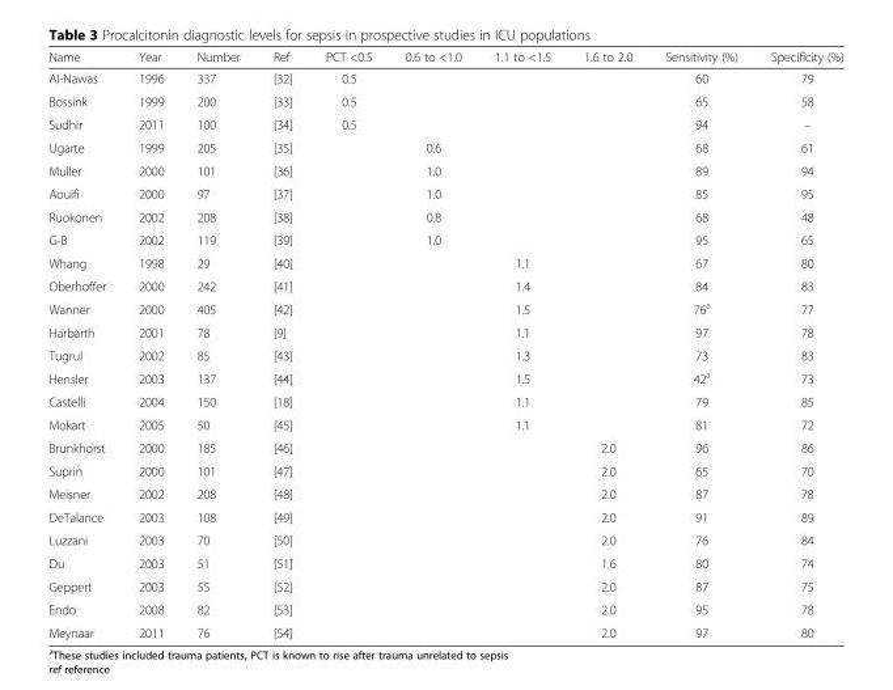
<table><thead><tr><td>Name</td><td>Year</td><td>Number</td><td>Ref</td><td>PCT &lt;0.5</td><td>0.6 to &lt;1.0</td><td>1.1 to &lt;1.5</td><td>1.6 to 2.0</td><td>Sensitivity (%)</td><td>Specificity (%)</td></tr></thead><tbody><tr><td>Al-Nawas</td><td>1996</td><td>337</td><td>[32]</td><td>0.5</td><td></td><td></td><td></td><td>60</td><td>79</td></tr><tr><td>Bossink</td><td>1999</td><td>200</td><td>[33]</td><td>0.5</td><td></td><td></td><td></td><td>65</td><td>58</td></tr><tr><td>Sudhir</td><td>2011</td><td>100</td><td>[34]</td><td>0.5</td><td></td><td></td><td></td><td>94</td><td>–</td></tr><tr><td>Ugarte</td><td>1999</td><td>205</td><td>[35]</td><td></td><td>0.6</td><td></td><td></td><td>68</td><td>61</td></tr><tr><td>Muller</td><td>2000</td><td>101</td><td>[36]</td><td></td><td>1.0</td><td></td><td></td><td>89</td><td>94</td></tr><tr><td>Aouifi</td><td>2000</td><td>97</td><td>[37]</td><td></td><td>1.0</td><td></td><td></td><td>85</td><td>95</td></tr><tr><td>Ruokonen</td><td>2002</td><td>208</td><td>[38]</td><td></td><td>0.8</td><td></td><td></td><td>68</td><td>48</td></tr><tr><td>G-B</td><td>2002</td><td>119</td><td>[39]</td><td></td><td>1.0</td><td></td><td></td><td>95</td><td>65</td></tr><tr><td>Whang</td><td>1998</td><td>29</td><td>[40]</td><td></td><td></td><td>1.1</td><td></td><td>67</td><td>80</td></tr><tr><td>Oberhoffer</td><td>2000</td><td>242</td><td>[41]</td><td></td><td></td><td>1.4</td><td></td><td>84</td><td>83</td></tr><tr><td>Wanner</td><td>2000</td><td>405</td><td>[42]</td><td></td><td></td><td>1.5</td><td></td><td>76<sup>a</sup></td><td>77</td></tr><tr><td>Harbarth</td><td>2001</td><td>78</td><td>[9]</td><td></td><td></td><td>1.1</td><td></td><td>97</td><td>78</td></tr><tr><td>Tugrul</td><td>2002</td><td>85</td><td>[43]</td><td></td><td></td><td>1.3</td><td></td><td>73</td><td>83</td></tr><tr><td>Hensler</td><td>2003</td><td>137</td><td>[44]</td><td></td><td></td><td>1.5</td><td></td><td>42<sup>a</sup></td><td>73</td></tr><tr><td>Castelli</td><td>2004</td><td>150</td><td>[18]</td><td></td><td></td><td>1.1</td><td></td><td>79</td><td>85</td></tr><tr><td>Mokart</td><td>2005</td><td>50</td><td>[45]</td><td></td><td></td><td>1.1</td><td></td><td>81</td><td>72</td></tr><tr><td>Brunkhorst</td><td>2000</td><td>185</td><td>[46]</td><td></td><td></td><td></td><td>2.0</td><td>96</td><td>86</td></tr><tr><td>Suprin</td><td>2000</td><td>101</td><td>[47]</td><td></td><td></td><td></td><td>2.0</td><td>65</td><td>70</td></tr><tr><td>Meisner</td><td>2002</td><td>208</td><td>[48]</td><td></td><td></td><td></td><td>2.0</td><td>87</td><td>78</td></tr><tr><td>DeTalance</td><td>2003</td><td>108</td><td>[49]</td><td></td><td></td><td></td><td>2.0</td><td>91</td><td>89</td></tr><tr><td>Luzzani</td><td>2003</td><td>70</td><td>[50]</td><td></td><td></td><td></td><td>2.0</td><td>76</td><td>84</td></tr><tr><td>Du</td><td>2003</td><td>51</td><td>[51]</td><td></td><td></td><td></td><td>1.6</td><td>80</td><td>74</td></tr><tr><td>Geppert</td><td>2003</td><td>55</td><td>[52]</td><td></td><td></td><td></td><td>2.0</td><td>87</td><td>75</td></tr><tr><td>Endo</td><td>2008</td><td>82</td><td>[53]</td><td></td><td></td><td></td><td>2.0</td><td>95</td><td>78</td></tr><tr><td>Meynaar</td><td>2011</td><td>76</td><td>[54]</td><td></td><td></td><td></td><td>2.0</td><td>97</td><td>80</td></tr></tbody></table>